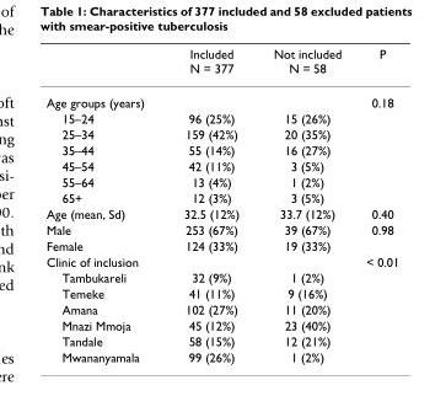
<table><thead><tr><td></td><td>Included N = 377</td><td>Not included N = 58</td><td>P</td></tr></thead><tbody><tr><td>Age groups (years)</td><td></td><td></td><td>0.18</td></tr><tr><td>15–24</td><td>96 (25%)</td><td>15 (26%)</td><td></td></tr><tr><td>25–34</td><td>159 (42%)</td><td>20 (35%)</td><td></td></tr><tr><td>35–44</td><td>55 (14%)</td><td>16 (27%)</td><td></td></tr><tr><td>45–54</td><td>42 (11%)</td><td>3 (5%)</td><td></td></tr><tr><td>55–64</td><td>13 (4%)</td><td>1 (2%)</td><td></td></tr><tr><td>65+</td><td>12 (3%)</td><td>3 (5%)</td><td></td></tr><tr><td>Age (mean, Sd)</td><td>32.5 (12%)</td><td>33.7 (12%)</td><td>0.40</td></tr><tr><td>Male</td><td>253 (67%)</td><td>39 (67%)</td><td>0.98</td></tr><tr><td>Female</td><td>124 (33%)</td><td>19 (33%)</td><td></td></tr><tr><td>Clinic of inclusion</td><td></td><td></td><td>&lt; 0.01</td></tr><tr><td>Tambukareli</td><td>32 (9%)</td><td>1 (2%)</td><td></td></tr><tr><td>Temeke</td><td>41 (11%)</td><td>9 (16%)</td><td></td></tr><tr><td>Amana</td><td>102 (27%)</td><td>11 (20%)</td><td></td></tr><tr><td>Mnazi Mmoja</td><td>45 (12%)</td><td>23 (40%)</td><td></td></tr><tr><td>Tandale</td><td>58 (15%)</td><td>12 (21%)</td><td></td></tr><tr><td>Mwananyamala</td><td>99 (26%)</td><td>1 (2%)</td><td></td></tr></tbody></table>